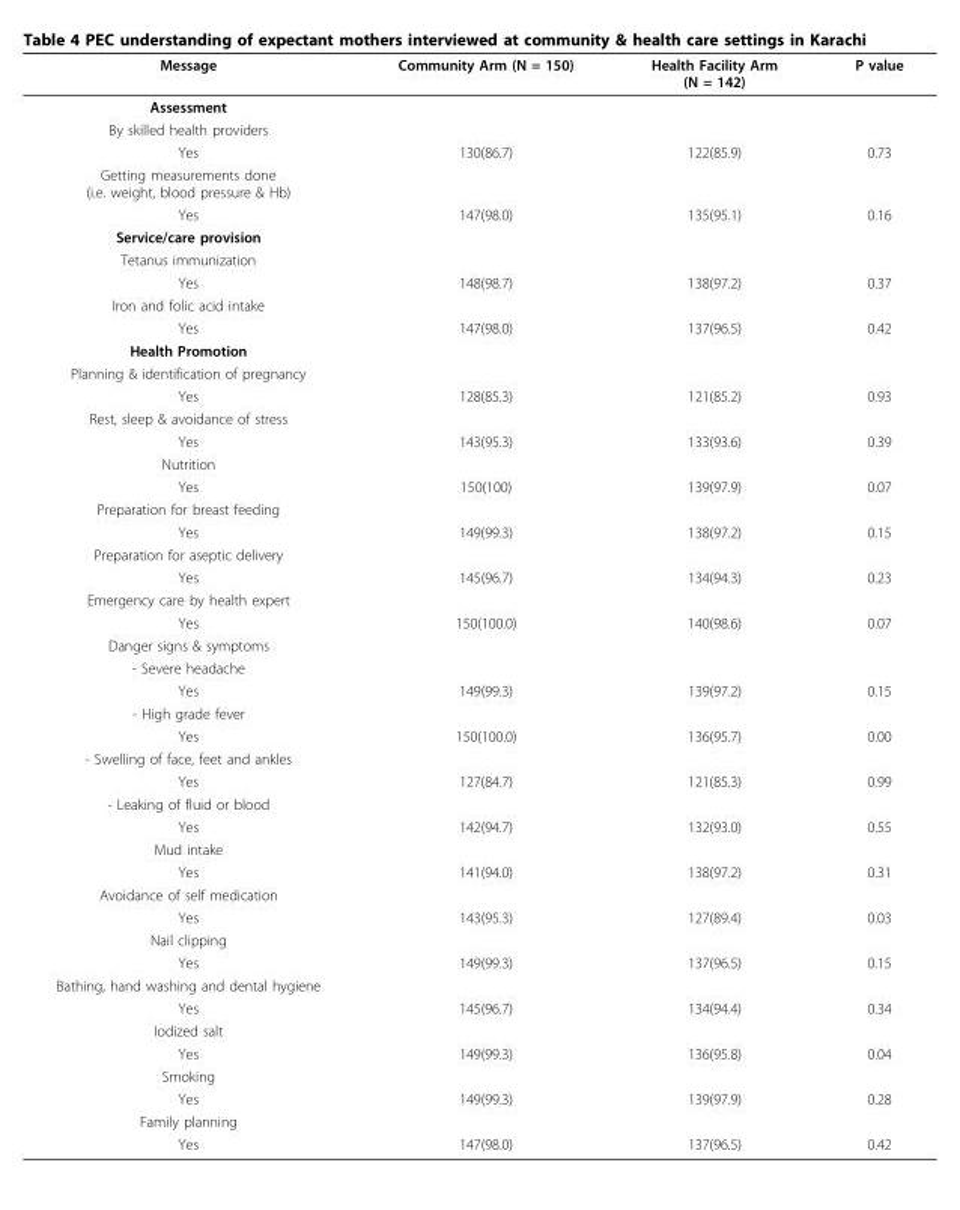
<table><thead><tr><td>Message</td><td>Community Arm (N = 150)</td><td>Health Facility Arm (N = 142)</td><td>P value</td></tr></thead><tbody><tr><td colspan="4">Assessment</td></tr><tr><td colspan="4">By skilled health providers</td></tr><tr><td>Yes</td><td>130(86.7)</td><td>122(85.9)</td><td>0.73</td></tr><tr><td colspan="4">Getting measurements done (i.e. weight, blood pressure &amp; Hb)</td></tr><tr><td>Yes</td><td>147(98.0)</td><td>135(95.1)</td><td>0.16</td></tr><tr><td colspan="4">Service/care provision</td></tr><tr><td colspan="4">Tetanus immunization</td></tr><tr><td>Yes</td><td>148(98.7)</td><td>138(97.2)</td><td>0.37</td></tr><tr><td colspan="4">Iron and folic acid intake</td></tr><tr><td>Yes</td><td>147(98.0)</td><td>137(96.5)</td><td>0.42</td></tr><tr><td colspan="4">Health Promotion</td></tr><tr><td colspan="4">Planning &amp; identification of pregnancy</td></tr><tr><td>Yes</td><td>128(85.3)</td><td>121(85.2)</td><td>0.93</td></tr><tr><td colspan="4">Rest, sleep &amp; avoidance of stress</td></tr><tr><td>Yes</td><td>143(95.3)</td><td>133(93.6)</td><td>0.39</td></tr><tr><td colspan="4">Nutrition</td></tr><tr><td>Yes</td><td>150(100)</td><td>139(97.9)</td><td>0.07</td></tr><tr><td colspan="4">Preparation for breast feeding</td></tr><tr><td>Yes</td><td>149(99.3)</td><td>138(97.2)</td><td>0.15</td></tr><tr><td colspan="4">Preparation for aseptic delivery</td></tr><tr><td>Yes</td><td>145(96.7)</td><td>134(94.3)</td><td>0.23</td></tr><tr><td colspan="4">Emergency care by health expert</td></tr><tr><td>Yes</td><td>150(100.0)</td><td>140(98.6)</td><td>0.07</td></tr><tr><td colspan="4">Danger signs &amp; symptoms</td></tr><tr><td colspan="4">- Severe headache</td></tr><tr><td>Yes</td><td>149(99.3)</td><td>139(97.2)</td><td>0.15</td></tr><tr><td colspan="4">- High grade fever</td></tr><tr><td>Yes</td><td>150(100.0)</td><td>136(95.7)</td><td>0.00</td></tr><tr><td colspan="4">- Swelling of face, feet and ankles</td></tr><tr><td>Yes</td><td>127(84.7)</td><td>121(85.3)</td><td>0.99</td></tr><tr><td colspan="4">- Leaking of fluid or blood</td></tr><tr><td>Yes</td><td>142(94.7)</td><td>132(93.0)</td><td>0.55</td></tr><tr><td colspan="4">Mud intake</td></tr><tr><td>Yes</td><td>141(94.0)</td><td>138(97.2)</td><td>0.31</td></tr><tr><td colspan="4">Avoidance of self medication</td></tr><tr><td>Yes</td><td>143(95.3)</td><td>127(89.4)</td><td>0.03</td></tr><tr><td colspan="4">Nail clipping</td></tr><tr><td>Yes</td><td>149(99.3)</td><td>137(96.5)</td><td>0.15</td></tr><tr><td colspan="4">Bathing, hand washing and dental hygiene</td></tr><tr><td>Yes</td><td>145(96.7)</td><td>134(94.4)</td><td>0.34</td></tr><tr><td colspan="4">Iodized salt</td></tr><tr><td>Yes</td><td>149(99.3)</td><td>136(95.8)</td><td>0.04</td></tr><tr><td colspan="4">Smoking</td></tr><tr><td>Yes</td><td>149(99.3)</td><td>139(97.9)</td><td>0.28</td></tr><tr><td colspan="4">Family planning</td></tr><tr><td>Yes</td><td>147(98.0)</td><td>137(96.5)</td><td>0.42</td></tr></tbody></table>